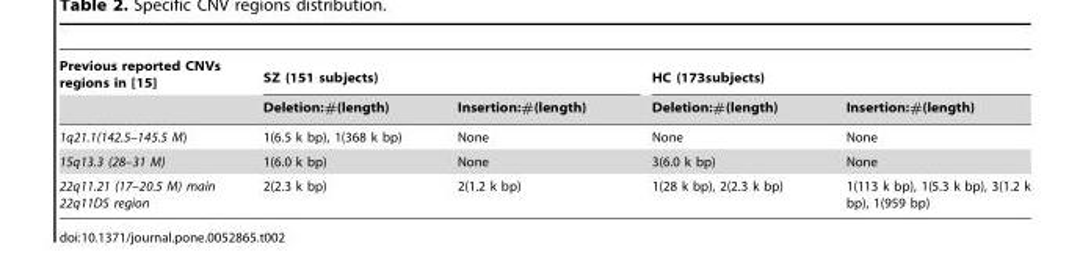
<table><thead><tr><td rowspan="2">Previous reported CNVs regions in [15]</td><td colspan="2">SZ (151 subjects)</td><td colspan="2">HC (173subjects)</td></tr><tr><td>Deletion:#(length)</td><td>Insertion:#(length)</td><td>Deletion:#(length)</td><td>Insertion:#(length)</td></tr></thead><tbody><tr><td>1q21.1(142.5–145.5 M)</td><td>1(6.5 k bp), 1(368 k bp)</td><td>None</td><td>None</td><td>None</td></tr><tr><td>15q13.3 (28–31 M)</td><td>1(6.0 k bp)</td><td>None</td><td>3(6.0 k bp)</td><td>None</td></tr><tr><td>22q11.21 (17–20.5 M) main 22q11DS region</td><td>2(2.3 k bp)</td><td>2(1.2 k bp)</td><td>1(28 k bp), 2(2.3 k bp)</td><td>1(113 k bp), 1(5.3 k bp), 3(1.2 k bp), 1(959 bp)</td></tr></tbody></table>